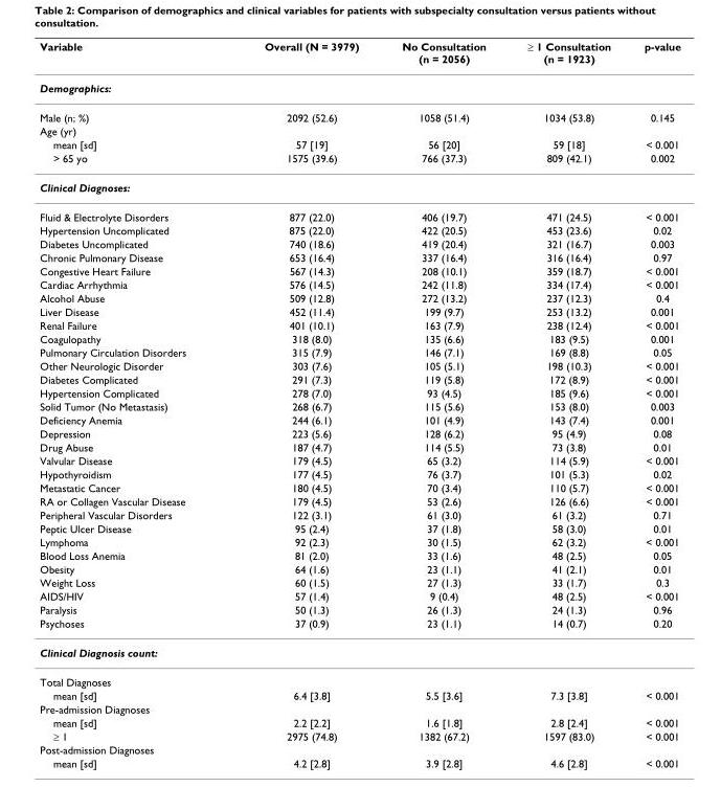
<table><thead><tr><td>Variable</td><td>Overall (N = 3979)</td><td>No Consultation (n = 2056)</td><td>≥ 1 Consultation (n = 1923)</td><td>p-value</td></tr></thead><tbody><tr><td colspan="5">Demographics:</td></tr><tr><td>Male (n; %)</td><td>2092 (52.6)</td><td>1058 (51.4)</td><td>1034 (53.8)</td><td>0.145</td></tr><tr><td colspan="5">Age (yr)</td></tr><tr><td>mean [sd]</td><td>57 [19]</td><td>56 [20]</td><td>59 [18]</td><td>&lt; 0.001</td></tr><tr><td>&gt; 65 yo</td><td>1575 (39.6)</td><td>766 (37.3)</td><td>809 (42.1)</td><td>0.002</td></tr><tr><td colspan="5">Clinical Diagnoses:</td></tr><tr><td>Fluid &amp; Electrolyte Disorders</td><td>877 (22.0)</td><td>406 (19.7)</td><td>471 (24.5)</td><td>&lt; 0.001</td></tr><tr><td>Hypertension Uncomplicated</td><td>875 (22.0)</td><td>422 (20.5)</td><td>453 (23.6)</td><td>0.02</td></tr><tr><td>Diabetes Uncomplicated</td><td>740 (18.6)</td><td>419 (20.4)</td><td>321 (16.7)</td><td>0.003</td></tr><tr><td>Chronic Pulmonary Disease</td><td>653 (16.4)</td><td>337 (16.4)</td><td>316 (16.4)</td><td>0.97</td></tr><tr><td>Congestive Heart Failure</td><td>567 (14.3)</td><td>208 (10.1)</td><td>359 (18.7)</td><td>&lt; 0.001</td></tr><tr><td>Cardiac Arrhythmia</td><td>576 (14.5)</td><td>242 (11.8)</td><td>334 (17.4)</td><td>&lt; 0.001</td></tr><tr><td>Alcohol Abuse</td><td>509 (12.8)</td><td>272 (13.2)</td><td>237 (12.3)</td><td>0.4</td></tr><tr><td>Liver Disease</td><td>452 (11.4)</td><td>199 (9.7)</td><td>253 (13.2)</td><td>0.001</td></tr><tr><td>Renal Failure</td><td>401 (10.1)</td><td>163 (7.9)</td><td>238 (12.4)</td><td>&lt; 0.001</td></tr><tr><td>Coagulopathy</td><td>318 (8.0)</td><td>135 (6.6)</td><td>183 (9.5)</td><td>0.001</td></tr><tr><td>Pulmonary Circulation Disorders</td><td>315 (7.9)</td><td>146 (7.1)</td><td>169 (8.8)</td><td>0.05</td></tr><tr><td>Other Neurologic Disorder</td><td>303 (7.6)</td><td>105 (5.1)</td><td>198 (10.3)</td><td>&lt; 0.001</td></tr><tr><td>Diabetes Complicated</td><td>291 (7.3)</td><td>119 (5.8)</td><td>172 (8.9)</td><td>&lt; 0.001</td></tr><tr><td>Hypertension Complicated</td><td>278 (7.0)</td><td>93 (4.5)</td><td>185 (9.6)</td><td>&lt; 0.001</td></tr><tr><td>Solid Tumor (No Metastasis)</td><td>268 (6.7)</td><td>115 (5.6)</td><td>153 (8.0)</td><td>0.003</td></tr><tr><td>Deficiency Anemia</td><td>244 (6.1)</td><td>101 (4.9)</td><td>143 (7.4)</td><td>0.001</td></tr><tr><td>Depression</td><td>223 (5.6)</td><td>128 (6.2)</td><td>95 (4.9)</td><td>0.08</td></tr><tr><td>Drug Abuse</td><td>187 (4.7)</td><td>114 (5.5)</td><td>73 (3.8)</td><td>0.01</td></tr><tr><td>Valvular Disease</td><td>179 (4.5)</td><td>65 (3.2)</td><td>114 (5.9)</td><td>&lt; 0.001</td></tr><tr><td>Hypothyroidism</td><td>177 (4.5)</td><td>76 (3.7)</td><td>101 (5.3)</td><td>0.02</td></tr><tr><td>Metastatic Cancer</td><td>180 (4.5)</td><td>70 (3.4)</td><td>110 (5.7)</td><td>&lt; 0.001</td></tr><tr><td>RA or Collagen Vascular Disease</td><td>179 (4.5)</td><td>53 (2.6)</td><td>126 (6.6)</td><td>&lt; 0.001</td></tr><tr><td>Peripheral Vascular Disorders</td><td>122 (3.1)</td><td>61 (3.0)</td><td>61 (3.2)</td><td>0.71</td></tr><tr><td>Peptic Ulcer Disease</td><td>95 (2.4)</td><td>37 (1.8)</td><td>58 (3.0)</td><td>0.01</td></tr><tr><td>Lymphoma</td><td>92 (2.3)</td><td>30 (1.5)</td><td>62 (3.2)</td><td>&lt; 0.001</td></tr><tr><td>Blood Loss Anemia</td><td>81 (2.0)</td><td>33 (1.6)</td><td>48 (2.5)</td><td>0.05</td></tr><tr><td>Obesity</td><td>64 (1.6)</td><td>23 (1.1)</td><td>41 (2.1)</td><td>0.01</td></tr><tr><td>Weight Loss</td><td>60 (1.5)</td><td>27 (1.3)</td><td>33 (1.7)</td><td>0.3</td></tr><tr><td>AIDS/HIV</td><td>57 (1.4)</td><td>9 (0.4)</td><td>48 (2.5)</td><td>&lt; 0.001</td></tr><tr><td>Paralysis</td><td>50 (1.3)</td><td>26 (1.3)</td><td>24 (1.3)</td><td>0.96</td></tr><tr><td>Psychoses</td><td>37 (0.9)</td><td>23 (1.1)</td><td>14 (0.7)</td><td>0.20</td></tr><tr><td colspan="5">Clinical Diagnosis count:</td></tr><tr><td colspan="5">Total Diagnoses</td></tr><tr><td>mean [sd]</td><td>6.4 [3.8]</td><td>5.5 [3.6]</td><td>7.3 [3.8]</td><td>&lt; 0.001</td></tr><tr><td colspan="5">Pre-admission Diagnoses</td></tr><tr><td>mean [sd]</td><td>2.2 [2.2]</td><td>1.6 [1.8]</td><td>2.8 [2.4]</td><td>&lt; 0.001</td></tr><tr><td>≥ 1</td><td>2975 (74.8)</td><td>1382 (67.2)</td><td>1597 (83.0)</td><td>&lt; 0.001</td></tr><tr><td colspan="5">Post-admission Diagnoses</td></tr><tr><td>mean [sd]</td><td>4.2 [2.8]</td><td>3.9 [2.8]</td><td>4.6 [2.8]</td><td>&lt; 0.001</td></tr></tbody></table>